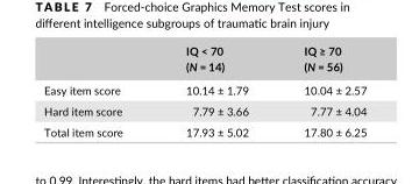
<table><thead><tr><td></td><td>IQ &lt; 70 (N = 14)</td><td>IQ ≥ 70 (N = 56)</td></tr></thead><tbody><tr><td>Easy item score</td><td>10.14 ± 1.79</td><td>10.04 ± 2.57</td></tr><tr><td>Hard item score</td><td>7.79 ± 3.66</td><td>7.77 ± 4.04</td></tr><tr><td>Total item score</td><td>17.93 ± 5.02</td><td>17.80 ± 6.25</td></tr></tbody></table>